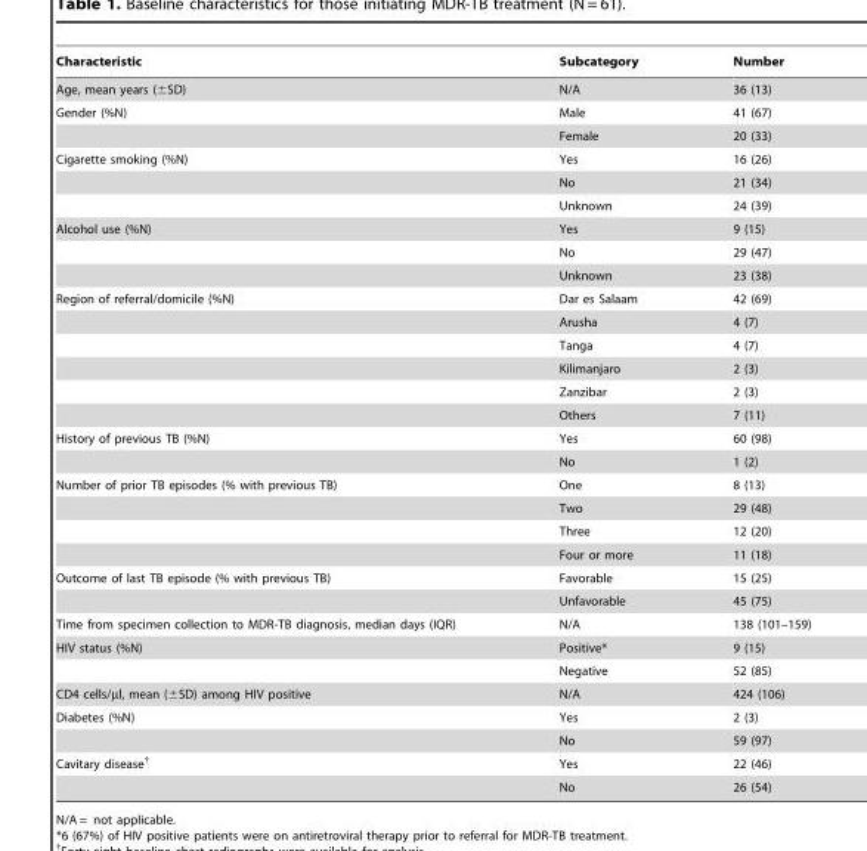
<table><thead><tr><td>Characteristic</td><td>Subcategory</td><td>Number</td></tr></thead><tbody><tr><td>Age, mean years (±SD)</td><td>N/A</td><td>36 (13)</td></tr><tr><td rowspan="2">Gender (%N)</td><td>Male</td><td>41 (67)</td></tr><tr><td>Female</td><td>20 (33)</td></tr><tr><td rowspan="3">Cigarette smoking (%N)</td><td>Yes</td><td>16 (26)</td></tr><tr><td>No</td><td>21 (34)</td></tr><tr><td>Unknown</td><td>24 (39)</td></tr><tr><td rowspan="3">Alcohol use (%N)</td><td>Yes</td><td>9 (15)</td></tr><tr><td>No</td><td>29 (47)</td></tr><tr><td>Unknown</td><td>23 (38)</td></tr><tr><td rowspan="6">Region of referral/domicile (%N)</td><td>Dar es Salaam</td><td>42 (69)</td></tr><tr><td>Arusha</td><td>4 (7)</td></tr><tr><td>Tanga</td><td>4 (7)</td></tr><tr><td>Kilimanjaro</td><td>2 (3)</td></tr><tr><td>Zanzibar</td><td>2 (3)</td></tr><tr><td>Others</td><td>7 (11)</td></tr><tr><td rowspan="2">History of previous TB (%N)</td><td>Yes</td><td>60 (98)</td></tr><tr><td>No</td><td>1 (2)</td></tr><tr><td rowspan="4">Number of prior TB episodes (% with previous TB)</td><td>One</td><td>8 (13)</td></tr><tr><td>Two</td><td>29 (48)</td></tr><tr><td>Three</td><td>12 (20)</td></tr><tr><td>Four or more</td><td>11 (18)</td></tr><tr><td rowspan="2">Outcome of last TB episode (% with previous TB)</td><td>Favorable</td><td>15 (25)</td></tr><tr><td>Unfavorable</td><td>45 (75)</td></tr><tr><td>Time from specimen collection to MDR-TB diagnosis, median days (IQR)</td><td>N/A</td><td>138 (101–159)</td></tr><tr><td rowspan="2">HIV status (%N)</td><td>Positive*</td><td>9 (15)</td></tr><tr><td>Negative</td><td>52 (85)</td></tr><tr><td>CD4 cells/µl, mean (±SD) among HIV positive</td><td>N/A</td><td>424 (106)</td></tr><tr><td rowspan="2">Diabetes (%N)</td><td>Yes</td><td>2 (3)</td></tr><tr><td>No</td><td>59 (97)</td></tr><tr><td rowspan="2">Cavitary disease†</td><td>Yes</td><td>22 (46)</td></tr><tr><td>No</td><td>26 (54)</td></tr></tbody></table>